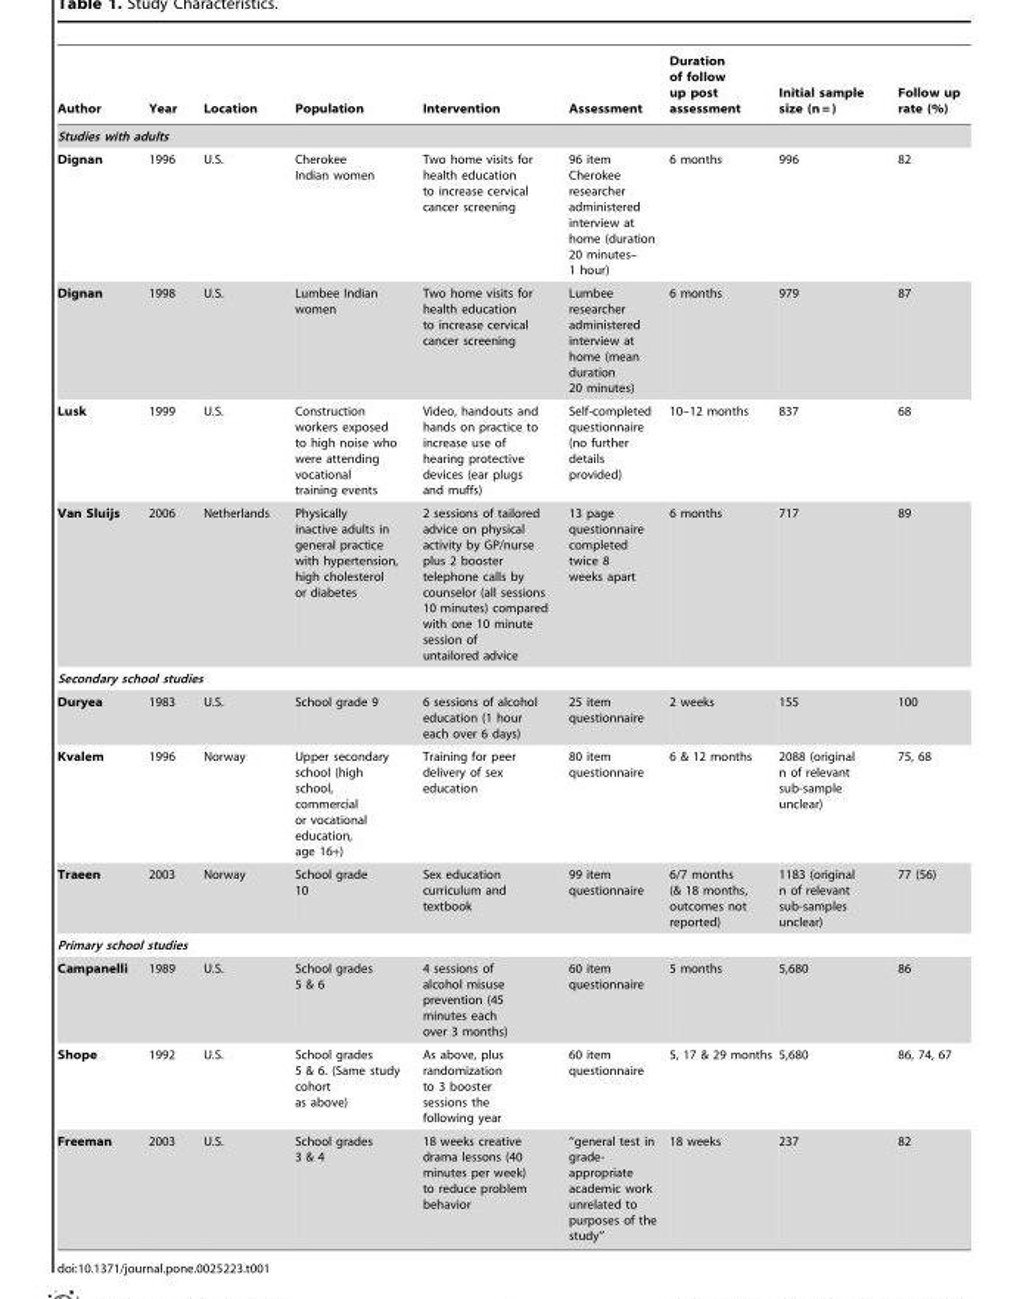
<table><thead><tr><td>Author</td><td>Year</td><td>Location</td><td>Population</td><td>Intervention</td><td>Assessment</td><td>Duration of follow up post assessment</td><td>Initial sample size (n = )</td><td>Follow up rate (%)</td></tr></thead><tbody><tr><td colspan="9">Studies with adults</td></tr><tr><td>Dignan</td><td>1996</td><td>U.S.</td><td>Cherokee Indian women</td><td>Two home visits for health education to increase cervical cancer screening</td><td>96 item Cherokee researcher administered interview at home (duration 20 minutes– 1 hour)</td><td>6 months</td><td>996</td><td>82</td></tr><tr><td>Dignan</td><td>1998</td><td>U.S.</td><td>Lumbee Indian women</td><td>Two home visits for health education to increase cervical cancer screening</td><td>Lumbee researcher administered interview at home (mean duration 20 minutes)</td><td>6 months</td><td>979</td><td>87</td></tr><tr><td>Lusk</td><td>1999</td><td>U.S.</td><td>Construction workers exposed to high noise who were attending vocational training events</td><td>Video, handouts and hands on practice to increase use of hearing protective devices (ear plugs and muffs)</td><td>Self-completed questionnaire (no further details provided)</td><td>10–12 months</td><td>837</td><td>68</td></tr><tr><td>Van Sluijs</td><td>2006</td><td>Netherlands</td><td>Physically inactive adults in general practice with hypertension, high cholesterol or diabetes</td><td>2 sessions of tailored advice on physical activity by GP/nurse plus 2 booster telephone calls by counselor (all sessions 10 minutes) compared with one 10 minute session of untailored advice</td><td>13 page questionnaire completed twice 8 weeks apart</td><td>6 months</td><td>717</td><td>89</td></tr><tr><td colspan="9">Secondary school studies</td></tr><tr><td>Duryea</td><td>1983</td><td>U.S.</td><td>School grade 9</td><td>6 sessions of alcohol education (1 hour each over 6 days)</td><td>25 item questionnaire</td><td>2 weeks</td><td>155</td><td>100</td></tr><tr><td>Kvalem</td><td>1996</td><td>Norway</td><td>Upper secondary school (high school, commercial or vocational education, age 16+)</td><td>Training for peer delivery of sex education</td><td>80 item questionnaire</td><td>6 &amp; 12 months</td><td>2088 (original n of relevant sub-sample unclear)</td><td>75, 68</td></tr><tr><td>Traeen</td><td>2003</td><td>Norway</td><td>School grade 10</td><td>Sex education curriculum and textbook</td><td>99 item questionnaire</td><td>6/7 months (&amp; 18 months, outcomes not reported)</td><td>1183 (original n of relevant sub-samples unclear)</td><td>77 (56)</td></tr><tr><td colspan="9">Primary school studies</td></tr><tr><td>Campanelli</td><td>1989</td><td>U.S.</td><td>School grades 5 &amp; 6</td><td>4 sessions of alcohol misuse prevention (45 minutes each over 3 months)</td><td>60 item questionnaire</td><td>5 months</td><td>5,680</td><td>86</td></tr><tr><td>Shope</td><td>1992</td><td>U.S.</td><td>School grades 5 &amp; 6. (Same study cohort as above)</td><td>As above, plus randomization to 3 booster sessions the following year</td><td>60 item questionnaire</td><td>5, 17 &amp; 29 months</td><td>5,680</td><td>86, 74, 67</td></tr><tr><td>Freeman</td><td>2003</td><td>U.S.</td><td>School grades 3 &amp; 4</td><td>18 weeks creative drama lessons (40 minutes per week) to reduce problem behavior</td><td>‘‘general test in grade- appropriate academic work unrelated to purposes of the study’’</td><td>18 weeks</td><td>237</td><td>82</td></tr></tbody></table>